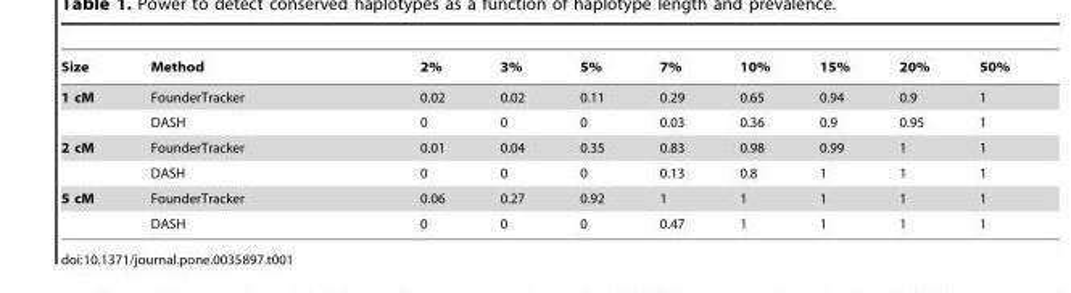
<table><thead><tr><td>Size</td><td>Method</td><td>2%</td><td>3%</td><td>5%</td><td>7%</td><td>10%</td><td>15%</td><td>20%</td><td>50%</td></tr></thead><tbody><tr><td rowspan="2">1 cM</td><td>FounderTracker</td><td>0.02</td><td>0.02</td><td>0.11</td><td>0.29</td><td>0.65</td><td>0.94</td><td>0.9</td><td>1</td></tr><tr><td>DASH</td><td>0</td><td>0</td><td>0</td><td>0.03</td><td>0.36</td><td>0.9</td><td>0.95</td><td>1</td></tr><tr><td rowspan="2">2 cM</td><td>FounderTracker</td><td>0.01</td><td>0.04</td><td>0.35</td><td>0.83</td><td>0.98</td><td>0.99</td><td>1</td><td>1</td></tr><tr><td>DASH</td><td>0</td><td>0</td><td>0</td><td>0.13</td><td>0.8</td><td>1</td><td>1</td><td>1</td></tr><tr><td rowspan="2">5 cM</td><td>FounderTracker</td><td>0.06</td><td>0.27</td><td>0.92</td><td>1</td><td>1</td><td>1</td><td>1</td><td>1</td></tr><tr><td>DASH</td><td>0</td><td>0</td><td>0</td><td>0.47</td><td>1</td><td>1</td><td>1</td><td>1</td></tr></tbody></table>